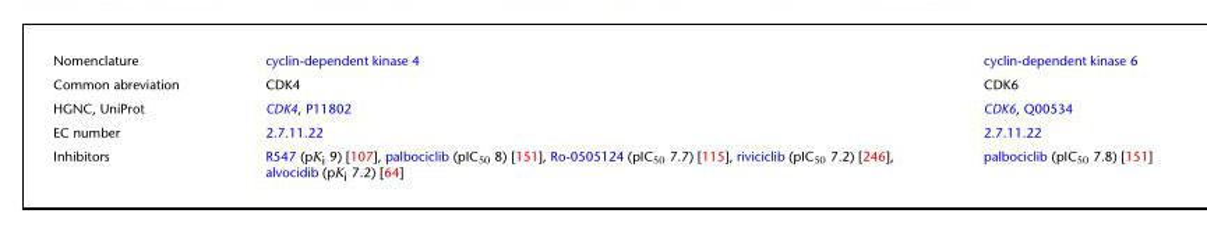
<table><tbody><tr><td>Nomenclature</td><td>cyclin-dependent kinase 4</td><td>cyclin-dependent kinase 6</td></tr><tr><td>Common abreviation</td><td>CDK4</td><td>CDK6</td></tr><tr><td>HGNC, UniProt</td><td>CDK4, P11802</td><td>CDK6, Q00534</td></tr><tr><td>EC number</td><td>2.7.11.22</td><td>2.7.11.22</td></tr><tr><td>Inhibitors</td><td>R547 (pK<sub>i</sub> 9) [107], palbociclib (pIC<sub>50</sub> 8) [151], Ro-0505124 (pIC<sub>50</sub> 7.7) [115], riviciclib (pIC<sub>50</sub> 7.2) [246], alvocidib (pK<sub>i</sub> 7.2) [64]</td><td>palbociclib (pIC<sub>50</sub> 7.8) [151]</td></tr></tbody></table>